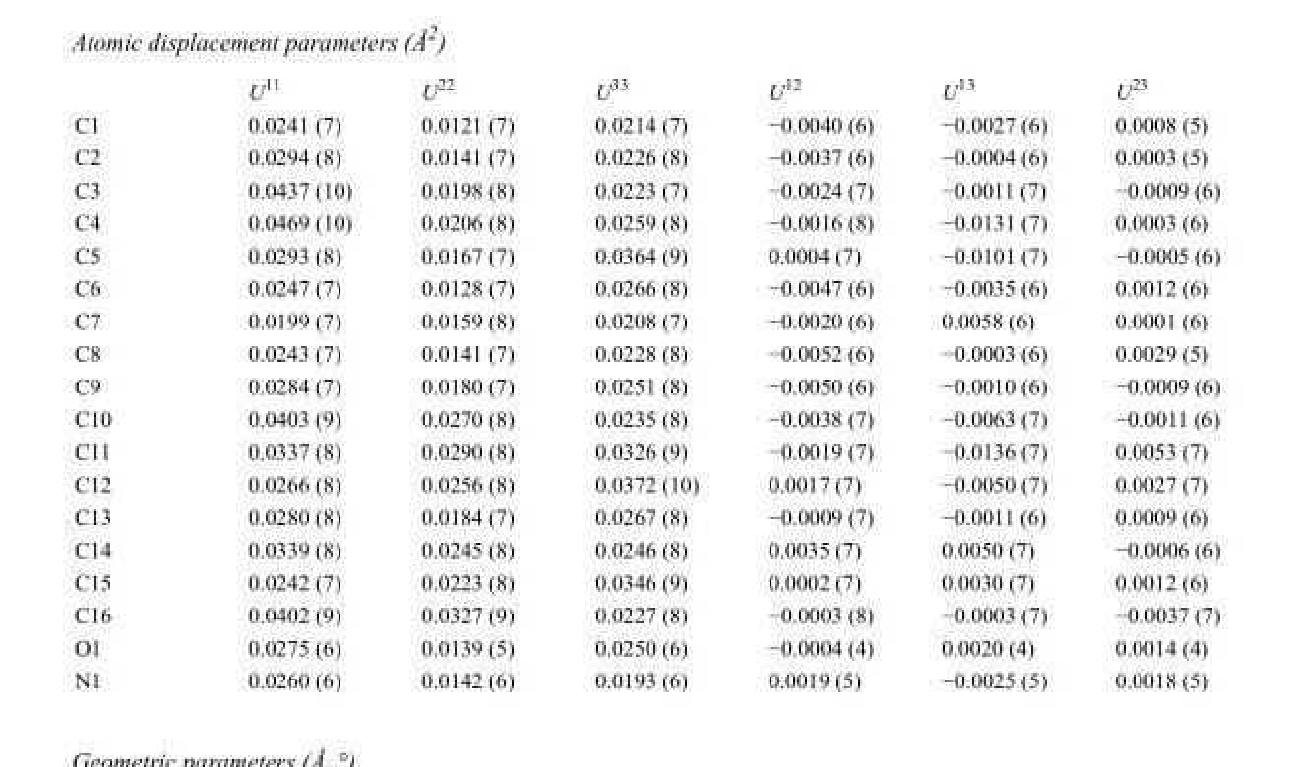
<table><thead><tr><td></td><td>U<sup>11</sup></td><td>U<sup>22</sup></td><td>U<sup>33</sup></td><td>U<sup>12</sup></td><td>U<sup>13</sup></td><td>U<sup>23</sup></td></tr></thead><tbody><tr><td>C1</td><td>0.0241 (7)</td><td>0.0121 (7)</td><td>0.0214 (7)</td><td>−0.0040 (6)</td><td>−0.0027 (6)</td><td>0.0008 (5)</td></tr><tr><td>C2</td><td>0.0294 (8)</td><td>0.0141 (7)</td><td>0.0226 (8)</td><td>−0.0037 (6)</td><td>−0.0004 (6)</td><td>0.0003 (5)</td></tr><tr><td>C3</td><td>0.0437 (10)</td><td>0.0198 (8)</td><td>0.0223 (7)</td><td>−0.0024 (7)</td><td>−0.0011 (7)</td><td>−0.0009 (6)</td></tr><tr><td>C4</td><td>0.0469 (10)</td><td>0.0206 (8)</td><td>0.0259 (8)</td><td>−0.0016 (8)</td><td>−0.0131 (7)</td><td>0.0003 (6)</td></tr><tr><td>C5</td><td>0.0293 (8)</td><td>0.0167 (7)</td><td>0.0364 (9)</td><td>0.0004 (7)</td><td>−0.0101 (7)</td><td>−0.0005 (6)</td></tr><tr><td>C6</td><td>0.0247 (7)</td><td>0.0128 (7)</td><td>0.0266 (8)</td><td>−0.0047 (6)</td><td>−0.0035 (6)</td><td>0.0012 (6)</td></tr><tr><td>C7</td><td>0.0199 (7)</td><td>0.0159 (8)</td><td>0.0208 (7)</td><td>−0.0020 (6)</td><td>0.0058 (6)</td><td>0.0001 (6)</td></tr><tr><td>C8</td><td>0.0243 (7)</td><td>0.0141 (7)</td><td>0.0228 (8)</td><td>−0.0052 (6)</td><td>−0.0003 (6)</td><td>0.0029 (5)</td></tr><tr><td>C9</td><td>0.0284 (7)</td><td>0.0180 (7)</td><td>0.0251 (8)</td><td>−0.0050 (6)</td><td>−0.0010 (6)</td><td>−0.0009 (6)</td></tr><tr><td>C10</td><td>0.0403 (9)</td><td>0.0270 (8)</td><td>0.0235 (8)</td><td>−0.0038 (7)</td><td>−0.0063 (7)</td><td>−0.0011 (6)</td></tr><tr><td>C11</td><td>0.0337 (8)</td><td>0.0290 (8)</td><td>0.0326 (9)</td><td>−0.0019 (7)</td><td>−0.0136 (7)</td><td>0.0053 (7)</td></tr><tr><td>C12</td><td>0.0266 (8)</td><td>0.0256 (8)</td><td>0.0372 (10)</td><td>0.0017 (7)</td><td>−0.0050 (7)</td><td>0.0027 (7)</td></tr><tr><td>C13</td><td>0.0280 (8)</td><td>0.0184 (7)</td><td>0.0267 (8)</td><td>−0.0009 (7)</td><td>−0.0011 (6)</td><td>0.0009 (6)</td></tr><tr><td>C14</td><td>0.0339 (8)</td><td>0.0245 (8)</td><td>0.0246 (8)</td><td>0.0035 (7)</td><td>0.0050 (7)</td><td>−0.0006 (6)</td></tr><tr><td>C15</td><td>0.0242 (7)</td><td>0.0223 (8)</td><td>0.0346 (9)</td><td>0.0002 (7)</td><td>0.0030 (7)</td><td>0.0012 (6)</td></tr><tr><td>C16</td><td>0.0402 (9)</td><td>0.0327 (9)</td><td>0.0227 (8)</td><td>−0.0003 (8)</td><td>−0.0003 (7)</td><td>−0.0037 (7)</td></tr><tr><td>O1</td><td>0.0275 (6)</td><td>0.0139 (5)</td><td>0.0250 (6)</td><td>−0.0004 (4)</td><td>0.0020 (4)</td><td>0.0014 (4)</td></tr><tr><td>N1</td><td>0.0260 (6)</td><td>0.0142 (6)</td><td>0.0193 (6)</td><td>0.0019 (5)</td><td>−0.0025 (5)</td><td>0.0018 (5)</td></tr></tbody></table>